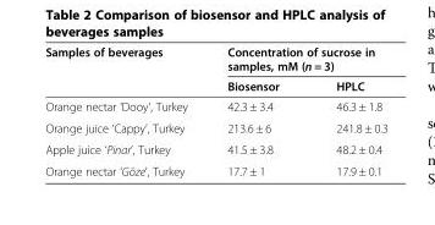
<table><thead><tr><td rowspan="2">Samples of beverages</td><td colspan="2">Concentration of sucrose in samples, mM (n = 3)</td></tr><tr><td>Biosensor</td><td>HPLC</td></tr></thead><tbody><tr><td>Orange nectar ‘Dooy’, Turkey</td><td>42.3 ± 3.4</td><td>46.3 ± 1.8</td></tr><tr><td>Orange juice ‘Cappy’, Turkey</td><td>213.6 ± 6</td><td>241.8 ± 0.3</td></tr><tr><td>Apple juice ‘Pinar’, Turkey</td><td>41.5 ± 3.8</td><td>48.2 ± 0.4</td></tr><tr><td>Orange nectar ‘Göze’, Turkey</td><td>17.7 ± 1</td><td>17.9 ± 0.1</td></tr></tbody></table>